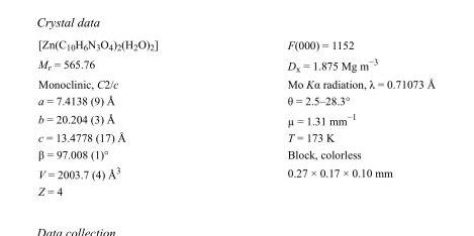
<table><tbody><tr><td>[Zn(C<sub>10</sub>H<sub>6</sub>N<sub>3</sub>O<sub>4</sub>)<sub>2</sub>(H<sub>2</sub>O)<sub>2</sub>]</td><td>F(000) = 1152</td></tr><tr><td>M<sub>r</sub> = 565.76</td><td>D<sub>x</sub> = 1.875 Mg m<sup>−3</sup></td></tr><tr><td>Monoclinic, C2/c</td><td>Mo Kα radiation, λ = 0.71073 Å</td></tr><tr><td>a = 7.4138 (9) Å</td><td>θ = 2.5–28.3°</td></tr><tr><td>b = 20.204 (3) Å</td><td>µ = 1.31 mm<sup>−1</sup></td></tr><tr><td>c = 13.4778 (17) Å</td><td>T = 173 K</td></tr><tr><td>β = 97.008 (1)°</td><td>Block, colorless</td></tr><tr><td>V = 2003.7 (4) Å<sup>3</sup></td><td>0.27 × 0.17 × 0.10 mm</td></tr><tr><td>Z = 4</td><td></td></tr></tbody></table>